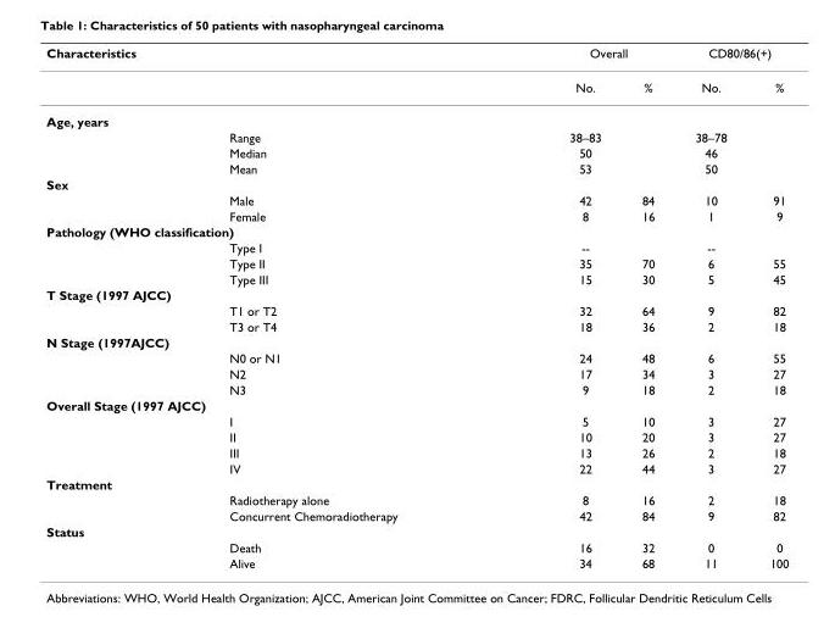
<table><thead><tr><td rowspan="2">Characteristics</td><td rowspan="2"></td><td colspan="2">Overall</td><td colspan="2">CD80/86(+)</td></tr><tr><td>No.</td><td>%</td><td>No.</td><td>%</td></tr></thead><tbody><tr><td colspan="6">Age, years</td></tr><tr><td></td><td>Range</td><td>38–83</td><td></td><td>38–78</td><td></td></tr><tr><td></td><td>Median</td><td>50</td><td></td><td>46</td><td></td></tr><tr><td></td><td>Mean</td><td>53</td><td></td><td>50</td><td></td></tr><tr><td colspan="6">Sex</td></tr><tr><td></td><td>Male</td><td>42</td><td>84</td><td>10</td><td>91</td></tr><tr><td></td><td>Female</td><td>8</td><td>16</td><td>1</td><td>9</td></tr><tr><td colspan="6">Pathology (WHO classification)</td></tr><tr><td></td><td>Type I</td><td>--</td><td></td><td>--</td><td></td></tr><tr><td></td><td>Type II</td><td>35</td><td>70</td><td>6</td><td>55</td></tr><tr><td></td><td>Type III</td><td>15</td><td>30</td><td>5</td><td>45</td></tr><tr><td colspan="6">T Stage (1997 AJCC)</td></tr><tr><td></td><td>T1 or T2</td><td>32</td><td>64</td><td>9</td><td>82</td></tr><tr><td></td><td>T3 or T4</td><td>18</td><td>36</td><td>2</td><td>18</td></tr><tr><td colspan="6">N Stage (1997AJCC)</td></tr><tr><td></td><td>N0 or N1</td><td>24</td><td>48</td><td>6</td><td>55</td></tr><tr><td></td><td>N2</td><td>17</td><td>34</td><td>3</td><td>27</td></tr><tr><td></td><td>N3</td><td>9</td><td>18</td><td>2</td><td>18</td></tr><tr><td colspan="6">Overall Stage (1997 AJCC)</td></tr><tr><td></td><td>I</td><td>5</td><td>10</td><td>3</td><td>27</td></tr><tr><td></td><td>II</td><td>10</td><td>20</td><td>3</td><td>27</td></tr><tr><td></td><td>III</td><td>13</td><td>26</td><td>2</td><td>18</td></tr><tr><td></td><td>IV</td><td>22</td><td>44</td><td>3</td><td>27</td></tr><tr><td colspan="6">Treatment</td></tr><tr><td></td><td>Radiotherapy alone</td><td>8</td><td>16</td><td>2</td><td>18</td></tr><tr><td></td><td>Concurrent Chemoradiotherapy</td><td>42</td><td>84</td><td>9</td><td>82</td></tr><tr><td colspan="6">Status</td></tr><tr><td></td><td>Death</td><td>16</td><td>32</td><td>0</td><td>0</td></tr><tr><td></td><td>Alive</td><td>34</td><td>68</td><td>11</td><td>100</td></tr></tbody></table>